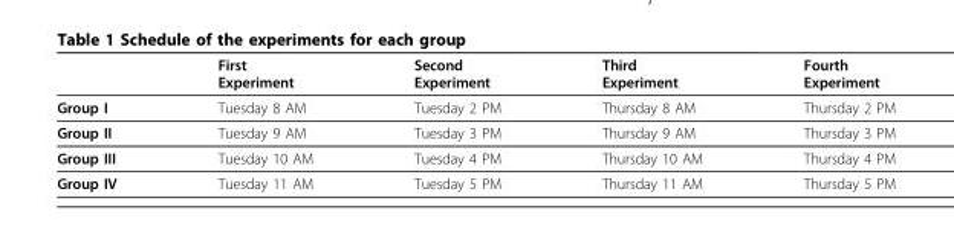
<table><thead><tr><td></td><td>First Experiment</td><td>Second Experiment</td><td>Third Experiment</td><td>Fourth Experiment</td></tr></thead><tbody><tr><td>Group I</td><td>Tuesday 8 AM</td><td>Tuesday 2 PM</td><td>Thursday 8 AM</td><td>Thursday 2 PM</td></tr><tr><td>Group II</td><td>Tuesday 9 AM</td><td>Tuesday 3 PM</td><td>Thursday 9 AM</td><td>Thursday 3 PM</td></tr><tr><td>Group III</td><td>Tuesday 10 AM</td><td>Tuesday 4 PM</td><td>Thursday 10 AM</td><td>Thursday 4 PM</td></tr><tr><td>Group IV</td><td>Tuesday 11 AM</td><td>Tuesday 5 PM</td><td>Thursday 11 AM</td><td>Thursday 5 PM</td></tr></tbody></table>